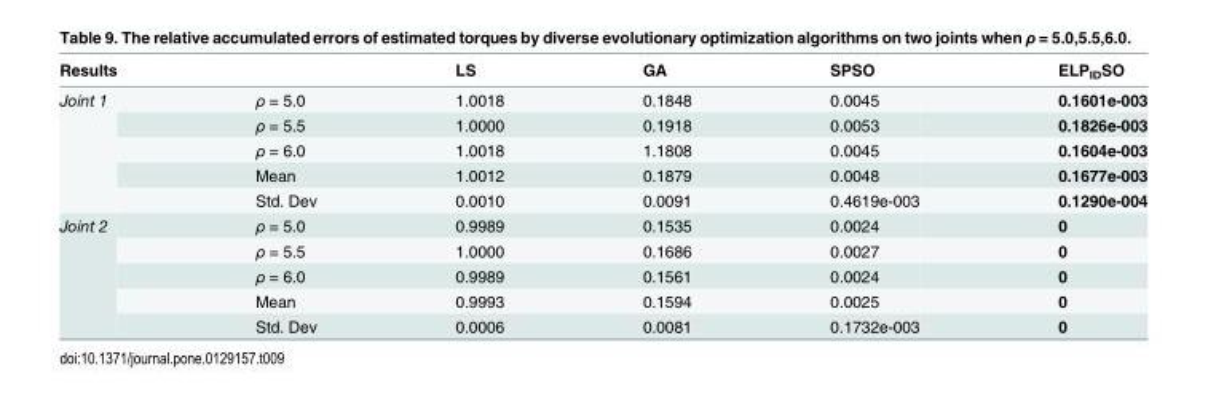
<table><thead><tr><td>Results</td><td></td><td>LS</td><td>GA</td><td>SPSO</td><td>ELP<sub>ID</sub>SO</td></tr></thead><tbody><tr><td rowspan="5">Joint 1</td><td>ρ = 5.0</td><td>1.0018</td><td>0.1848</td><td>0.0045</td><td>0.1601e-003</td></tr><tr><td>ρ = 5.5</td><td>1.0000</td><td>0.1918</td><td>0.0053</td><td>0.1826e-003</td></tr><tr><td>ρ = 6.0</td><td>1.0018</td><td>1.1808</td><td>0.0045</td><td>0.1604e-003</td></tr><tr><td>Mean</td><td>1.0012</td><td>0.1879</td><td>0.0048</td><td>0.1677e-003</td></tr><tr><td>Std. Dev</td><td>0.0010</td><td>0.0091</td><td>0.4619e-003</td><td>0.1290e-004</td></tr><tr><td rowspan="5">Joint 2</td><td>ρ = 5.0</td><td>0.9989</td><td>0.1535</td><td>0.0024</td><td>0</td></tr><tr><td>ρ = 5.5</td><td>1.0000</td><td>0.1686</td><td>0.0027</td><td>0</td></tr><tr><td>ρ = 6.0</td><td>0.9989</td><td>0.1561</td><td>0.0024</td><td>0</td></tr><tr><td>Mean</td><td>0.9993</td><td>0.1594</td><td>0.0025</td><td>0</td></tr><tr><td>Std. Dev</td><td>0.0006</td><td>0.0081</td><td>0.1732e-003</td><td>0</td></tr></tbody></table>